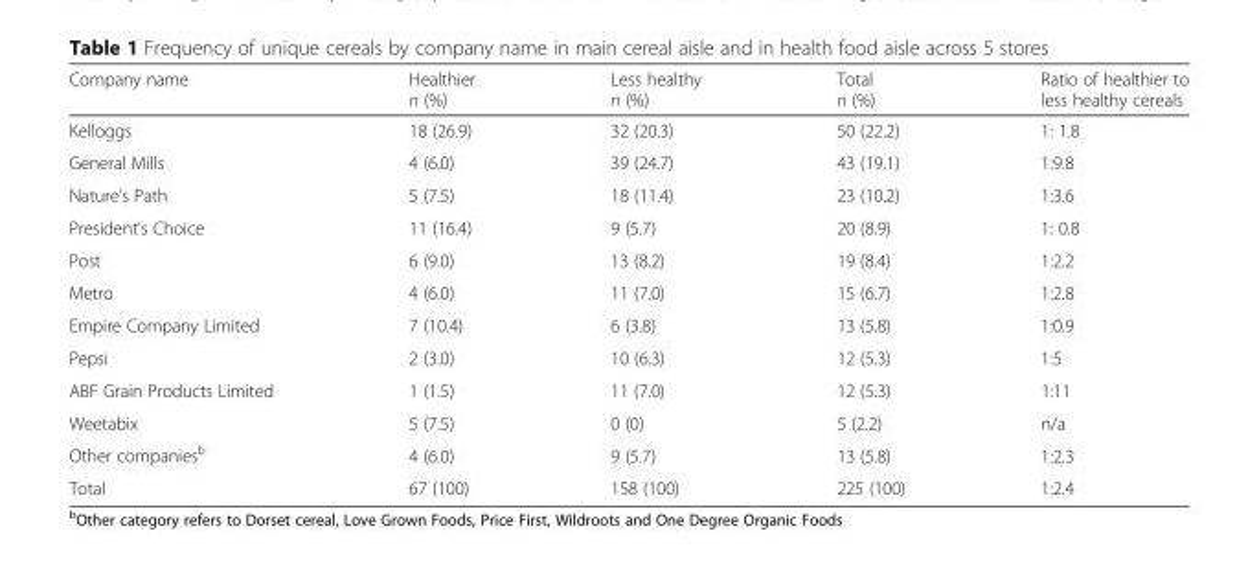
<table><thead><tr><td>Company name</td><td>Healthier n (%)</td><td>Less healthy n (%)</td><td>Total n (%)</td><td>Ratio of healthier to less healthy cereals</td></tr></thead><tbody><tr><td>Kelloggs</td><td>18 (26.9)</td><td>32 (20.3)</td><td>50 (22.2)</td><td>1: 1.8</td></tr><tr><td>General Mills</td><td>4 (6.0)</td><td>39 (24.7)</td><td>43 (19.1)</td><td>1:9.8</td></tr><tr><td>Nature’s Path</td><td>5 (7.5)</td><td>18 (11.4)</td><td>23 (10.2)</td><td>1:3.6</td></tr><tr><td>President’s Choice</td><td>11 (16.4)</td><td>9 (5.7)</td><td>20 (8.9)</td><td>1: 0.8</td></tr><tr><td>Post</td><td>6 (9.0)</td><td>13 (8.2)</td><td>19 (8.4)</td><td>1:2.2</td></tr><tr><td>Metro</td><td>4 (6.0)</td><td>11 (7.0)</td><td>15 (6.7)</td><td>1:2.8</td></tr><tr><td>Empire Company Limited</td><td>7 (10.4)</td><td>6 (3.8)</td><td>13 (5.8)</td><td>1:0.9</td></tr><tr><td>Pepsi</td><td>2 (3.0)</td><td>10 (6.3)</td><td>12 (5.3)</td><td>1:5</td></tr><tr><td>ABF Grain Products Limited</td><td>1 (1.5)</td><td>11 (7.0)</td><td>12 (5.3)</td><td>1:11</td></tr><tr><td>Weetabix</td><td>5 (7.5)</td><td>0 (0)</td><td>5 (2.2)</td><td>n/a</td></tr><tr><td>Other companies<sup>b</sup></td><td>4 (6.0)</td><td>9 (5.7)</td><td>13 (5.8)</td><td>1:2.3</td></tr><tr><td>Total</td><td>67 (100)</td><td>158 (100)</td><td>225 (100)</td><td>1:2.4</td></tr></tbody></table>